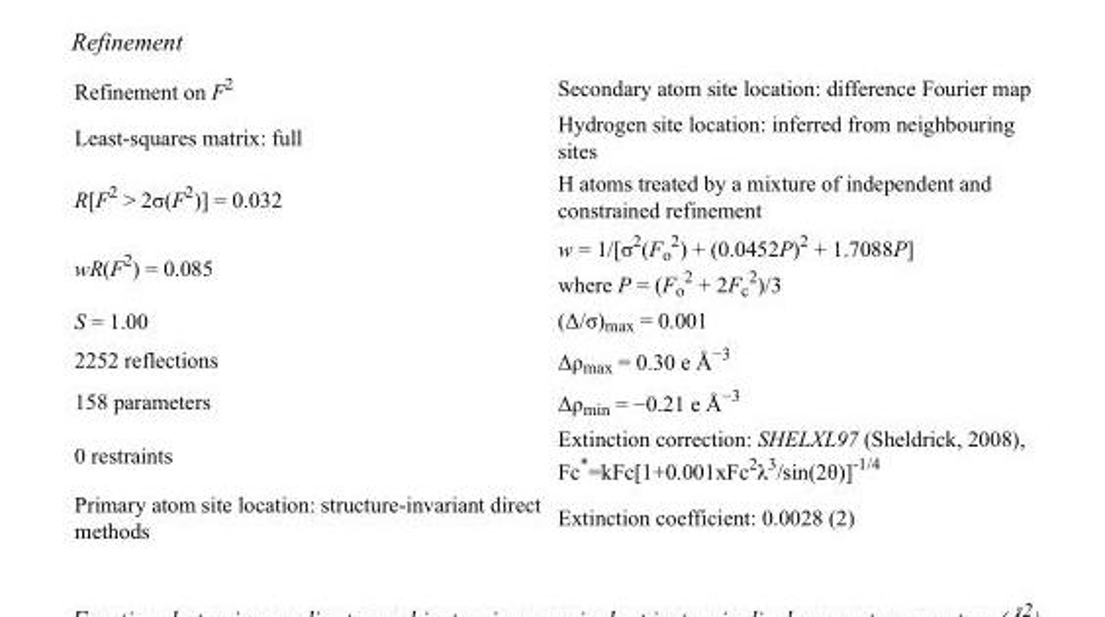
<table><tbody><tr><td>Refinement on F<sup>2</sup></td><td>Secondary atom site location: difference Fourier map</td></tr><tr><td>Least-squares matrix: full</td><td>Hydrogen site location: inferred from neighbouring sites</td></tr><tr><td>R[F<sup>2</sup> &gt; 2σ(F<sup>2</sup>)] = 0.032</td><td>H atoms treated by a mixture of independent and constrained refinement</td></tr><tr><td>wR(F<sup>2</sup>) = 0.085</td><td>w = 1/[σ<sup>2</sup>(F<sub>o</sub> <sup>2</sup>) + (0.0452P)<sup>2</sup> + 1.7088P] where P = (F<sub>o</sub> <sup>2</sup> + 2F<sub>c</sub> <sup>2</sup>)/3</td></tr><tr><td>S = 1.00</td><td>(Δ/σ)<sub>max</sub> = 0.001</td></tr><tr><td>2252 reflections</td><td>Δρ<sub>max</sub> = 0.30 e Å<sup>−3</sup></td></tr><tr><td>158 parameters</td><td>Δρ<sub>min</sub> = −0.21 e Å<sup>−3</sup></td></tr><tr><td>0 restraints</td><td>Extinction correction: SHELXL97 (Sheldrick, 2008), Fc*=kFc[1+0.001xFc<sup>2</sup>λ<sup>3</sup>/sin(2θ)]<sup>-1/4</sup></td></tr><tr><td>Primary atom site location: structure-invariant direct methods</td><td>Extinction coefficient: 0.0028 (2)</td></tr></tbody></table>